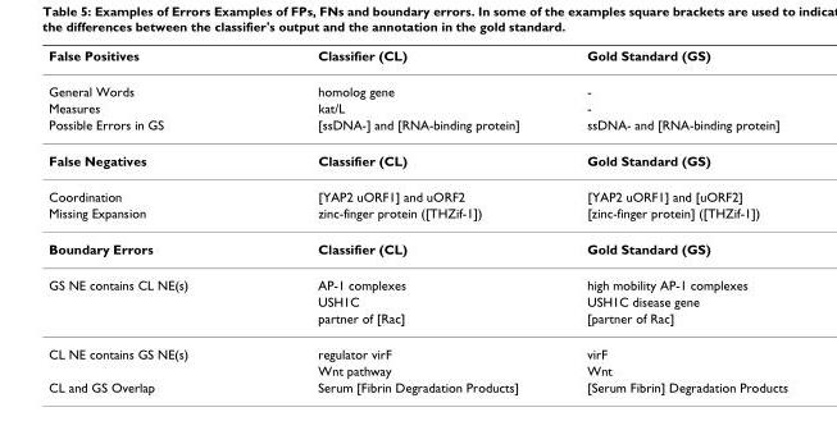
<table><thead><tr><td>False Positives</td><td>Classifier (CL)</td><td>Gold Standard (GS)</td></tr></thead><tbody><tr><td>General Words</td><td>homolog gene</td><td>-</td></tr><tr><td>Measures</td><td>kat/L</td><td>-</td></tr><tr><td>Possible Errors in GS</td><td>[ssDNA-] and [RNA-binding protein]</td><td>ssDNA- and [RNA-binding protein]</td></tr><tr><td>False Negatives</td><td>Classifier (CL)</td><td>Gold Standard (GS)</td></tr><tr><td>Coordination</td><td>[YAP2 uORF1] and uORF2</td><td>[YAP2 uORF1] and [uORF2]</td></tr><tr><td>Missing Expansion</td><td>zinc-finger protein ([THZif-1])</td><td>[zinc-finger protein] ([THZif-1])</td></tr><tr><td>Boundary Errors</td><td>Classifier (CL)</td><td>Gold Standard (GS)</td></tr><tr><td rowspan="3">GS NE contains CL NE(s)</td><td>AP-1 complexes</td><td>high mobility AP-1 complexes</td></tr><tr><td>USH1C</td><td>USH1C disease gene</td></tr><tr><td>partner of [Rac]</td><td>[partner of Rac]</td></tr><tr><td rowspan="2">CL NE contains GS NE(s)</td><td>regulator virF</td><td>virF</td></tr><tr><td>Wnt pathway</td><td>Wnt</td></tr><tr><td>CL and GS Overlap</td><td>Serum [Fibrin Degradation Products]</td><td>[Serum Fibrin] Degradation Products</td></tr></tbody></table>